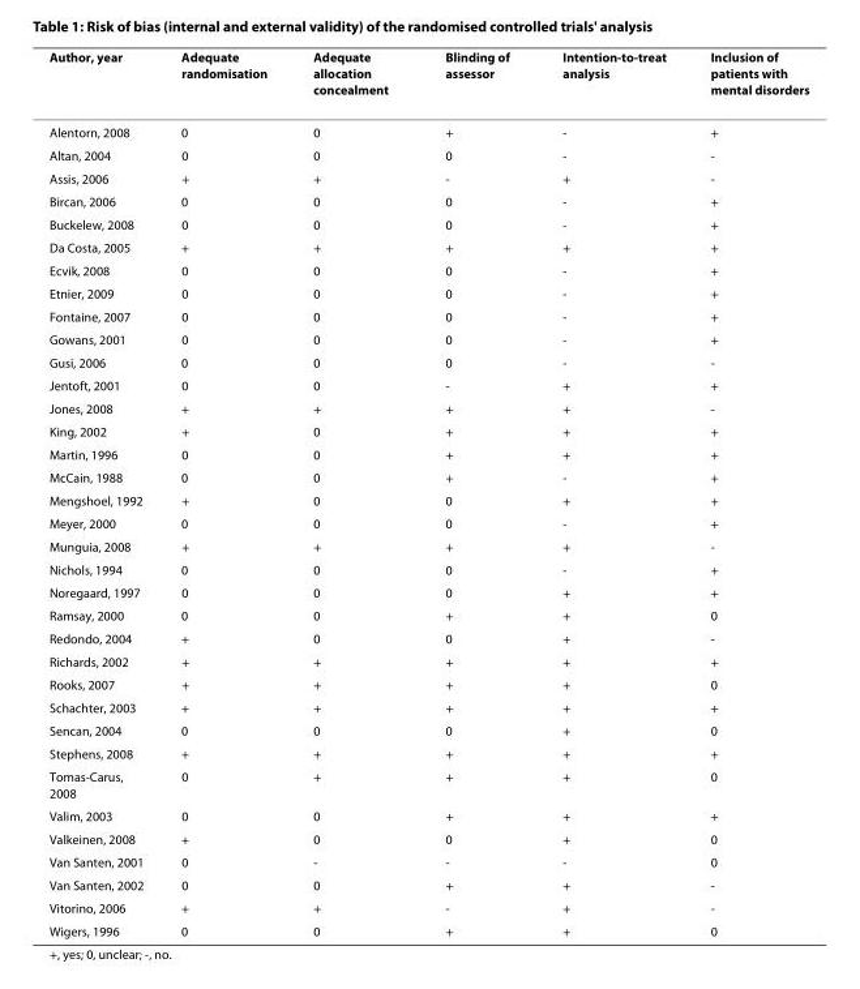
<table><thead><tr><td>Author, year</td><td>Adequate randomisation</td><td>Adequate allocation concealment</td><td>Blinding of assessor</td><td>Intention-to-treat analysis</td><td>Inclusion of patients with mental disorders</td></tr></thead><tbody><tr><td>Alentorn, 2008</td><td>0</td><td>0</td><td>+</td><td>-</td><td>+</td></tr><tr><td>Altan, 2004</td><td>0</td><td>0</td><td>0</td><td>-</td><td>-</td></tr><tr><td>Assis, 2006</td><td>+</td><td>+</td><td>-</td><td>+</td><td>-</td></tr><tr><td>Bircan, 2006</td><td>0</td><td>0</td><td>0</td><td>-</td><td>+</td></tr><tr><td>Buckelew, 2008</td><td>0</td><td>0</td><td>0</td><td>-</td><td>+</td></tr><tr><td>Da Costa, 2005</td><td>+</td><td>+</td><td>+</td><td>+</td><td>+</td></tr><tr><td>Ecvik, 2008</td><td>0</td><td>0</td><td>0</td><td>-</td><td>+</td></tr><tr><td>Etnier, 2009</td><td>0</td><td>0</td><td>0</td><td>-</td><td>+</td></tr><tr><td>Fontaine, 2007</td><td>0</td><td>0</td><td>0</td><td>-</td><td>+</td></tr><tr><td>Gowans, 2001</td><td>0</td><td>0</td><td>0</td><td>-</td><td>+</td></tr><tr><td>Gusi, 2006</td><td>0</td><td>0</td><td>0</td><td>-</td><td>-</td></tr><tr><td>Jentoft, 2001</td><td>0</td><td>0</td><td>-</td><td>+</td><td>+</td></tr><tr><td>Jones, 2008</td><td>+</td><td>+</td><td>+</td><td>+</td><td>-</td></tr><tr><td>King, 2002</td><td>+</td><td>0</td><td>+</td><td>+</td><td>+</td></tr><tr><td>Martin, 1996</td><td>0</td><td>0</td><td>+</td><td>+</td><td>+</td></tr><tr><td>McCain, 1988</td><td>0</td><td>0</td><td>+</td><td>-</td><td>+</td></tr><tr><td>Mengshoel, 1992</td><td>+</td><td>0</td><td>0</td><td>+</td><td>+</td></tr><tr><td>Meyer, 2000</td><td>0</td><td>0</td><td>0</td><td>-</td><td>+</td></tr><tr><td>Munguia, 2008</td><td>+</td><td>+</td><td>+</td><td>+</td><td>-</td></tr><tr><td>Nichols, 1994</td><td>0</td><td>0</td><td>0</td><td>-</td><td>+</td></tr><tr><td>Noregaard, 1997</td><td>0</td><td>0</td><td>0</td><td>+</td><td>+</td></tr><tr><td>Ramsay, 2000</td><td>0</td><td>0</td><td>+</td><td>+</td><td>0</td></tr><tr><td>Redondo, 2004</td><td>+</td><td>0</td><td>0</td><td>+</td><td>-</td></tr><tr><td>Richards, 2002</td><td>+</td><td>+</td><td>+</td><td>+</td><td>+</td></tr><tr><td>Rooks, 2007</td><td>+</td><td>+</td><td>+</td><td>+</td><td>0</td></tr><tr><td>Schachter, 2003</td><td>+</td><td>+</td><td>+</td><td>+</td><td>+</td></tr><tr><td>Sencan, 2004</td><td>0</td><td>0</td><td>0</td><td>+</td><td>0</td></tr><tr><td>Stephens, 2008</td><td>+</td><td>+</td><td>+</td><td>+</td><td>+</td></tr><tr><td>Tomas-Carus, 2008</td><td>0</td><td>+</td><td>+</td><td>+</td><td>0</td></tr><tr><td>Valim, 2003</td><td>0</td><td>0</td><td>+</td><td>+</td><td>+</td></tr><tr><td>Valkeinen, 2008</td><td>+</td><td>0</td><td>0</td><td>+</td><td>0</td></tr><tr><td>Van Santen, 2001</td><td>0</td><td>-</td><td>-</td><td>-</td><td>0</td></tr><tr><td>Van Santen, 2002</td><td>0</td><td>0</td><td>+</td><td>+</td><td>-</td></tr><tr><td>Vitorino, 2006</td><td>+</td><td>+</td><td>-</td><td>+</td><td>-</td></tr><tr><td>Wigers, 1996</td><td>0</td><td>0</td><td>+</td><td>+</td><td>0</td></tr></tbody></table>